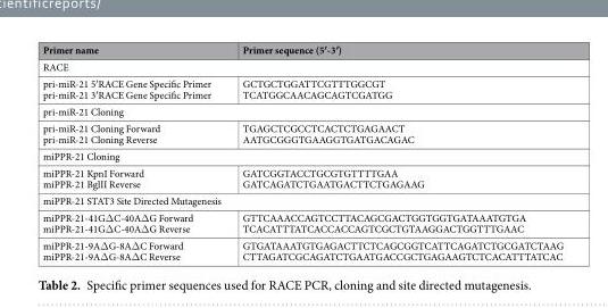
<table><thead><tr><td>Primer name</td><td>Primer sequence (5′-3′)</td></tr></thead><tbody><tr><td colspan="2">RACE</td></tr><tr><td>pri-miR-21 5′RACE Gene Specific Primer pri-miR-21 3′RACE Gene Specific Primer</td><td>GCTGCTGGATTCGTTTGGCGT TCATGGCAACAGCAGTCGATGG</td></tr><tr><td colspan="2">pri-miR-21 Cloning</td></tr><tr><td>pri-miR-21 Cloning Forward pri-miR-21 Cloning Reverse</td><td>TGAGCTCGCCTCACTCTGAGAACT AATGCGGGTGAAGGTGATGACAGAC</td></tr><tr><td colspan="2">miPPR-21 Cloning</td></tr><tr><td>miPPR-21 KpnI Forward miPPR-21 BglII Reverse</td><td>GATCGGTACCTGCGTGTTTTGAA GATCAGATCTGAATGACTTCTGAGAAG</td></tr><tr><td colspan="2">miPPR-21 STAT3 Site Directed Mutagenesis</td></tr><tr><td>miPPR-21-41GΔC-40AΔG Forward miPPR-21-41GΔC-40AΔG Reverse</td><td>GTTCAAACCAGTCCTTACAGCGACTGGTGGTGATAAATGTGA TCACATTTATCACCACCAGTCGCTGTAAGGACTGGTTTGAAC</td></tr><tr><td>miPPR-21-9AΔG-8AΔC Forward miPPR-21-9AΔG-8AΔC Reverse</td><td>GTGATAAATGTGAGACTTCTCAGCGGTCATTCAGATCTGCGATCTAAG CTTAGATCGCAGATCTGAATGACCGCTGAGAAGTCTCACATTTATCAC</td></tr></tbody></table>